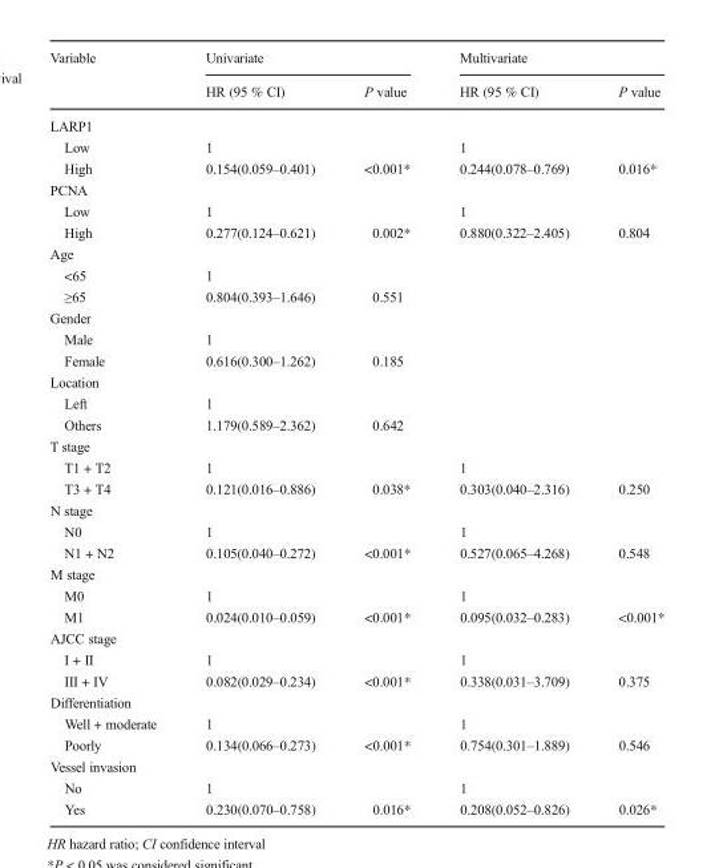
<table><thead><tr><td rowspan="2">Variable</td><td colspan="2">Univariate</td><td colspan="2">Multivariate</td></tr><tr><td>HR (95 % CI)</td><td>P value</td><td>HR (95 % CI)</td><td>P value</td></tr></thead><tbody><tr><td colspan="5">LARP1</td></tr><tr><td>Low</td><td>1</td><td></td><td>1</td><td></td></tr><tr><td>High</td><td>0.154(0.059–0.401)</td><td>&lt;0.001*</td><td>0.244(0.078–0.769)</td><td>0.016*</td></tr><tr><td colspan="5">PCNA</td></tr><tr><td>Low</td><td>1</td><td></td><td>1</td><td></td></tr><tr><td>High</td><td>0.277(0.124–0.621)</td><td>0.002*</td><td>0.880(0.322–2.405)</td><td>0.804</td></tr><tr><td colspan="5">Age</td></tr><tr><td>&lt;65</td><td>1</td><td></td><td></td><td></td></tr><tr><td>≥65</td><td>0.804(0.393–1.646)</td><td>0.551</td><td></td><td></td></tr><tr><td colspan="5">Gender</td></tr><tr><td>Male</td><td>1</td><td></td><td></td><td></td></tr><tr><td>Female</td><td>0.616(0.300–1.262)</td><td>0.185</td><td></td><td></td></tr><tr><td colspan="5">Location</td></tr><tr><td>Left</td><td>1</td><td></td><td></td><td></td></tr><tr><td>Others</td><td>1.179(0.589–2.362)</td><td>0.642</td><td></td><td></td></tr><tr><td colspan="5">T stage</td></tr><tr><td>T1 + T2</td><td>1</td><td></td><td>1</td><td></td></tr><tr><td>T3 + T4</td><td>0.121(0.016–0.886)</td><td>0.038*</td><td>0.303(0.040–2.316)</td><td>0.250</td></tr><tr><td colspan="5">N stage</td></tr><tr><td>N0</td><td>1</td><td></td><td>1</td><td></td></tr><tr><td>N1 + N2</td><td>0.105(0.040–0.272)</td><td>&lt;0.001*</td><td>0.527(0.065–4.268)</td><td>0.548</td></tr><tr><td colspan="5">M stage</td></tr><tr><td>M0</td><td>1</td><td></td><td>1</td><td></td></tr><tr><td>M1</td><td>0.024(0.010–0.059)</td><td>&lt;0.001*</td><td>0.095(0.032–0.283)</td><td>&lt;0.001*</td></tr><tr><td colspan="5">AJCC stage</td></tr><tr><td>I + II</td><td>1</td><td></td><td>1</td><td></td></tr><tr><td>III + IV</td><td>0.082(0.029–0.234)</td><td>&lt;0.001*</td><td>0.338(0.031–3.709)</td><td>0.375</td></tr><tr><td colspan="5">Differentiation</td></tr><tr><td>Well + moderate</td><td>1</td><td></td><td>1</td><td></td></tr><tr><td>Poorly</td><td>0.134(0.066–0.273)</td><td>&lt;0.001*</td><td>0.754(0.301–1.889)</td><td>0.546</td></tr><tr><td colspan="5">Vessel invasion</td></tr><tr><td>No</td><td>1</td><td></td><td>1</td><td></td></tr><tr><td>Yes</td><td>0.230(0.070–0.758)</td><td>0.016*</td><td>0.208(0.052–0.826)</td><td>0.026*</td></tr></tbody></table>